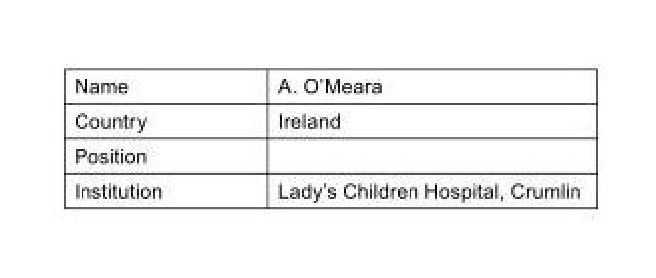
<table><tbody><tr><td>Name</td><td>A. O’Meara</td></tr><tr><td>Country</td><td>Ireland</td></tr><tr><td colspan="2">Position</td></tr><tr><td>Institution</td><td>Lady’s Children Hospital, Crumlin</td></tr></tbody></table>